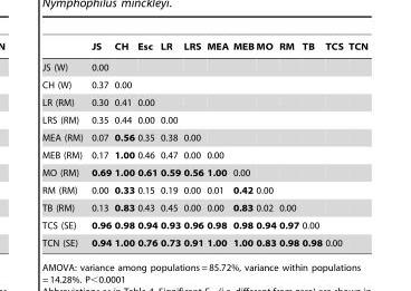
<table><thead><tr><td></td><td>JS</td><td>CH</td><td>Esc</td><td>LR</td><td>LRS</td><td>MEA</td><td>MEB</td><td>MO</td><td>RM</td><td>TB</td><td>TCS</td><td>TCN</td></tr></thead><tbody><tr><td>JS (W)</td><td>0.00</td><td></td><td></td><td></td><td></td><td></td><td></td><td></td><td></td><td></td><td></td><td></td></tr><tr><td>CH (W)</td><td>0.37</td><td>0.00</td><td></td><td></td><td></td><td></td><td></td><td></td><td></td><td></td><td></td><td></td></tr><tr><td>LR (RM)</td><td>0.30</td><td>0.41</td><td>0.00</td><td></td><td></td><td></td><td></td><td></td><td></td><td></td><td></td><td></td></tr><tr><td>LRS (RM)</td><td>0.35</td><td>0.44</td><td>0.00</td><td>0.00</td><td></td><td></td><td></td><td></td><td></td><td></td><td></td><td></td></tr><tr><td>MEA (RM)</td><td>0.07</td><td>0.56</td><td>0.35</td><td>0.38</td><td>0.00</td><td></td><td></td><td></td><td></td><td></td><td></td><td></td></tr><tr><td>MEB (RM)</td><td>0.17</td><td>1.00</td><td>0.46</td><td>0.47</td><td>0.00</td><td>0.00</td><td></td><td></td><td></td><td></td><td></td><td></td></tr><tr><td>MO (RM)</td><td>0.69</td><td>1.00</td><td>0.61</td><td>0.59</td><td>0.56</td><td>1.00</td><td>0.00</td><td></td><td></td><td></td><td></td><td></td></tr><tr><td>RM (RM)</td><td>0.00</td><td>0.33</td><td>0.15</td><td>0.19</td><td>0.00</td><td>0.01</td><td>0.42</td><td>0.00</td><td></td><td></td><td></td><td></td></tr><tr><td>TB (RM)</td><td>0.13</td><td>0.83</td><td>0.43</td><td>0.45</td><td>0.00</td><td>0.00</td><td>0.83</td><td>0.02</td><td>0.00</td><td></td><td></td><td></td></tr><tr><td>TCS (SE)</td><td>0.96</td><td>0.98</td><td>0.94</td><td>0.93</td><td>0.96</td><td>0.98</td><td>0.98</td><td>0.94</td><td>0.97</td><td>0.00</td><td></td><td></td></tr><tr><td>TCN (SE)</td><td>0.94</td><td>1.00</td><td>0.76</td><td>0.73</td><td>0.91</td><td>1.00</td><td>1.00</td><td>0.83</td><td>0.98</td><td>0.98</td><td>0.00</td><td></td></tr></tbody></table>